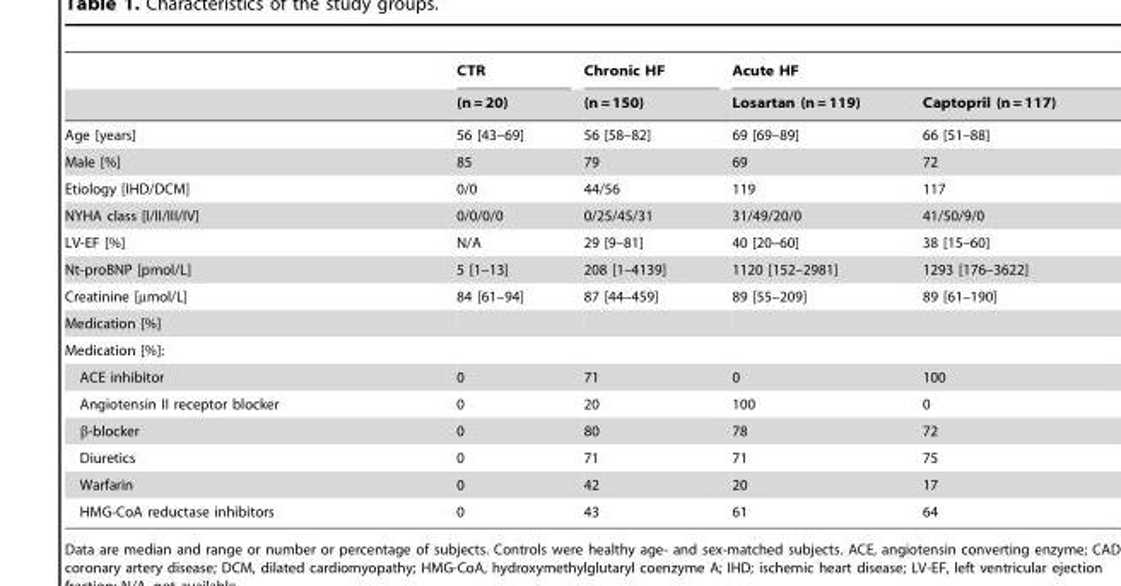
<table><thead><tr><td rowspan="2"></td><td rowspan="2">CTR (n = 20)</td><td rowspan="2">Chronic HF (n = 150)</td><td colspan="2">Acute HF</td></tr><tr><td>Losartan (n = 119)</td><td>Captopril (n = 117)</td></tr></thead><tbody><tr><td>Age [years]</td><td>56 [43–69]</td><td>56 [58–82]</td><td>69 [69–89]</td><td>66 [51–88]</td></tr><tr><td>Male [%]</td><td>85</td><td>79</td><td>69</td><td>72</td></tr><tr><td>Etiology [IHD/DCM]</td><td>0/0</td><td>44/56</td><td>119</td><td>117</td></tr><tr><td>NYHA class [I/II/III/IV]</td><td>0/0/0/0</td><td>0/25/45/31</td><td>31/49/20/0</td><td>41/50/9/0</td></tr><tr><td>LV-EF [%]</td><td>N/A</td><td>29 [9–81]</td><td>40 [20–60]</td><td>38 [15–60]</td></tr><tr><td>Nt-proBNP [pmol/L]</td><td>5 [1–13]</td><td>208 [1–4139]</td><td>1120 [152–2981]</td><td>1293 [176–3622]</td></tr><tr><td>Creatinine [µmol/L]</td><td>84 [61–94]</td><td>87 [44–459]</td><td>89 [55–209]</td><td>89 [61–190]</td></tr><tr><td colspan="5">Medication [%]</td></tr><tr><td colspan="5">Medication [%]:</td></tr><tr><td>ACE inhibitor</td><td>0</td><td>71</td><td>0</td><td>100</td></tr><tr><td>Angiotensin II receptor blocker</td><td>0</td><td>20</td><td>100</td><td>0</td></tr><tr><td>β-blocker</td><td>0</td><td>80</td><td>78</td><td>72</td></tr><tr><td>Diuretics</td><td>0</td><td>71</td><td>71</td><td>75</td></tr><tr><td>Warfarin</td><td>0</td><td>42</td><td>20</td><td>17</td></tr><tr><td>HMG-CoA reductase inhibitors</td><td>0</td><td>43</td><td>61</td><td>64</td></tr></tbody></table>